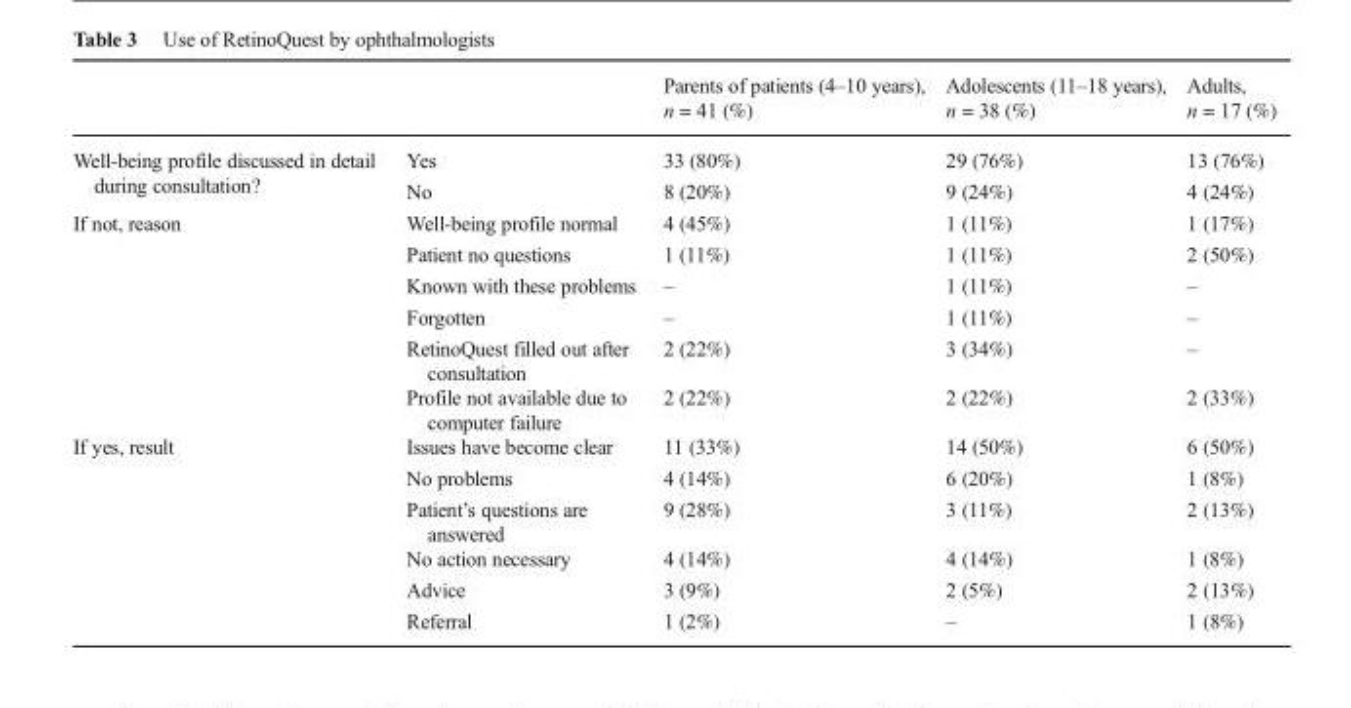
<table><thead><tr><td></td><td></td><td>Parents of patients (4–10 years), n = 41 (%)</td><td>Adolescents (11–18 years), n = 38 (%)</td><td>Adults, n = 17 (%)</td></tr></thead><tbody><tr><td rowspan="2">Well-being profile discussed in detail during consultation?</td><td>Yes</td><td>33 (80%)</td><td>29 (76%)</td><td>13 (76%)</td></tr><tr><td>No</td><td>8 (20%)</td><td>9 (24%)</td><td>4 (24%)</td></tr><tr><td rowspan="6">If not, reason</td><td>Well-being profile normal</td><td>4 (45%)</td><td>1 (11%)</td><td>1 (17%)</td></tr><tr><td>Patient no questions</td><td>1 (11%)</td><td>1 (11%)</td><td>2 (50%)</td></tr><tr><td>Known with these problems</td><td>–</td><td>1 (11%)</td><td>–</td></tr><tr><td>Forgotten</td><td>–</td><td>1 (11%)</td><td>–</td></tr><tr><td>RetinoQuest filled out after consultation</td><td>2 (22%)</td><td>3 (34%)</td><td>–</td></tr><tr><td>Profile not available due to computer failure</td><td>2 (22%)</td><td>2 (22%)</td><td>2 (33%)</td></tr><tr><td rowspan="6">If yes, result</td><td>Issues have become clear</td><td>11 (33%)</td><td>14 (50%)</td><td>6 (50%)</td></tr><tr><td>No problems</td><td>4 (14%)</td><td>6 (20%)</td><td>1 (8%)</td></tr><tr><td>Patient’s questions are answered</td><td>9 (28%)</td><td>3 (11%)</td><td>2 (13%)</td></tr><tr><td>No action necessary</td><td>4 (14%)</td><td>4 (14%)</td><td>1 (8%)</td></tr><tr><td>Advice</td><td>3 (9%)</td><td>2 (5%)</td><td>2 (13%)</td></tr><tr><td>Referral</td><td>1 (2%)</td><td>–</td><td>1 (8%)</td></tr></tbody></table>